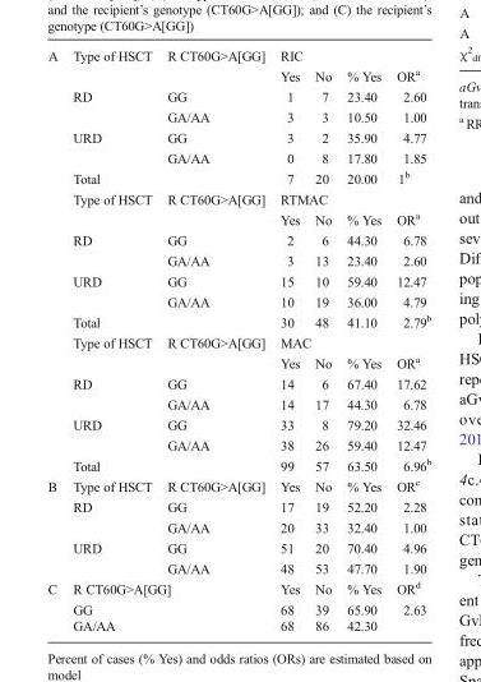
<table><tbody><tr><td rowspan="21">A</td><td rowspan="2">Type of HSCT</td><td rowspan="2">R CT60G&gt;A[GG]</td><td colspan="4">RIC</td></tr><tr><td>Yes</td><td>No</td><td>% Yes</td><td>OR<sup>a</sup></td></tr><tr><td rowspan="2">RD</td><td>GG</td><td>1</td><td>7</td><td>23.40</td><td>2.60</td></tr><tr><td>GA/AA</td><td>3</td><td>3</td><td>10.50</td><td>1.00</td></tr><tr><td rowspan="2">URD</td><td>GG</td><td>3</td><td>2</td><td>35.90</td><td>4.77</td></tr><tr><td>GA/AA</td><td>0</td><td>8</td><td>17.80</td><td>1.85</td></tr><tr><td colspan="2">Total</td><td>7</td><td>20</td><td>20.00</td><td>1<sup>b</sup></td></tr><tr><td rowspan="2">Type of HSCT</td><td rowspan="2">R CT60G&gt;A[GG]</td><td colspan="4">RTMAC</td></tr><tr><td>Yes</td><td>No</td><td>% Yes</td><td>OR<sup>a</sup></td></tr><tr><td rowspan="2">RD</td><td>GG</td><td>2</td><td>6</td><td>44.30</td><td>6.78</td></tr><tr><td>GA/AA</td><td>3</td><td>13</td><td>23.40</td><td>2.60</td></tr><tr><td rowspan="2">URD</td><td>GG</td><td>15</td><td>10</td><td>59.40</td><td>12.47</td></tr><tr><td>GA/AA</td><td>10</td><td>19</td><td>36.00</td><td>4.79</td></tr><tr><td colspan="2">Total</td><td>30</td><td>48</td><td>41.10</td><td>2.79<sup>b</sup></td></tr><tr><td rowspan="2">Type of HSCT</td><td rowspan="2">R CT60G&gt;A[GG]</td><td colspan="4">MAC</td></tr><tr><td>Yes</td><td>No</td><td>% Yes</td><td>OR<sup>a</sup></td></tr><tr><td rowspan="2">RD</td><td>GG</td><td>14</td><td>6</td><td>67.40</td><td>17.62</td></tr><tr><td>GA/AA</td><td>14</td><td>17</td><td>44.30</td><td>6.78</td></tr><tr><td rowspan="2">URD</td><td>GG</td><td>33</td><td>8</td><td>79.20</td><td>32.46</td></tr><tr><td>GA/AA</td><td>38</td><td>26</td><td>59.40</td><td>12.47</td></tr><tr><td colspan="2">Total</td><td>99</td><td>57</td><td>63.50</td><td>6.96<sup>b</sup></td></tr><tr><td rowspan="5">B</td><td>Type of HSCT</td><td>R CT60G&gt;A[GG]</td><td>Yes</td><td>No</td><td>% Yes</td><td>OR<sup>c</sup></td></tr><tr><td rowspan="2">RD</td><td>GG</td><td>17</td><td>19</td><td>52.20</td><td>2.28</td></tr><tr><td>GA/AA</td><td>20</td><td>33</td><td>32.40</td><td>1.00</td></tr><tr><td rowspan="2">URD</td><td>GG</td><td>51</td><td>20</td><td>70.40</td><td>4.96</td></tr><tr><td>GA/AA</td><td>48</td><td>53</td><td>47.70</td><td>1.90</td></tr><tr><td rowspan="3">C</td><td colspan="2">R CT60G&gt;A[GG]</td><td>Yes</td><td>No</td><td>% Yes</td><td>OR<sup>d</sup></td></tr><tr><td colspan="2">GG</td><td>68</td><td>39</td><td>65.90</td><td rowspan="2">2.63</td></tr><tr><td colspan="2">GA/AA</td><td>68</td><td>86</td><td>42.30</td></tr></tbody></table>